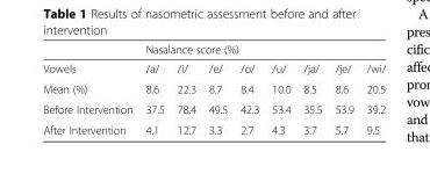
<table><thead><tr><td rowspan="2">Vowels</td><td colspan="8">Nasalance score (%)</td></tr><tr><td>/a/</td><td>/i/</td><td>/e/</td><td>/o/</td><td>/u/</td><td>/ja/</td><td>/je/</td><td>/wi/</td></tr></thead><tbody><tr><td>Mean (%)</td><td>8.6</td><td>22.3</td><td>8.7</td><td>8.4</td><td>10.0</td><td>8.5</td><td>8.6</td><td>20.5</td></tr><tr><td>Before Intervention</td><td>37.5</td><td>78.4</td><td>49.5</td><td>42.3</td><td>53.4</td><td>35.5</td><td>53.9</td><td>39.2</td></tr><tr><td>After Intervention</td><td>4.1</td><td>12.7</td><td>3.3</td><td>2.7</td><td>4.3</td><td>3.7</td><td>5.7</td><td>9.5</td></tr></tbody></table>